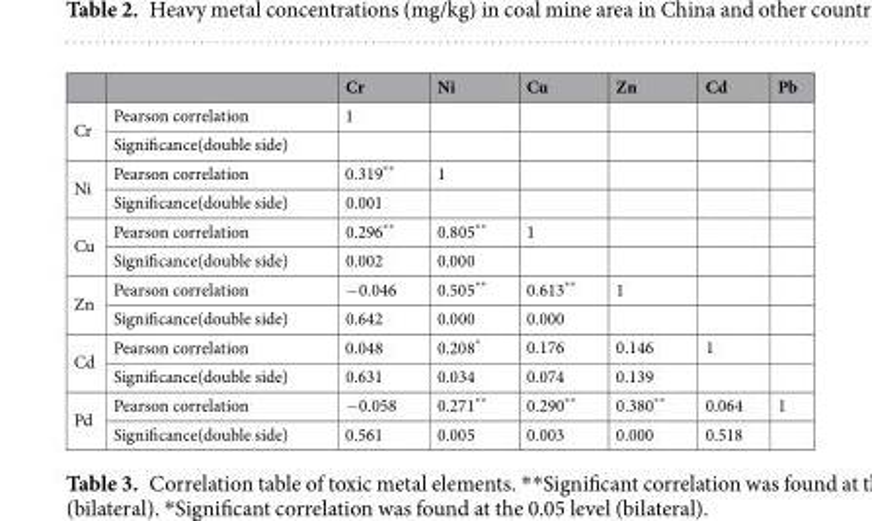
<table><thead><tr><td></td><td></td><td>Cr</td><td>Ni</td><td>Cu</td><td>Zn</td><td>Cd</td><td>Pb</td></tr></thead><tbody><tr><td rowspan="2">Cr</td><td>Pearson correlation</td><td>1</td><td></td><td></td><td></td><td></td><td></td></tr><tr><td>Significance(double side)</td><td></td><td></td><td></td><td></td><td></td><td></td></tr><tr><td rowspan="2">Ni</td><td>Pearson correlation</td><td>0.319**</td><td>1</td><td></td><td></td><td></td><td></td></tr><tr><td>Significance(double side)</td><td>0.001</td><td></td><td></td><td></td><td></td><td></td></tr><tr><td rowspan="2">Cu</td><td>Pearson correlation</td><td>0.296**</td><td>0.805**</td><td>1</td><td></td><td></td><td></td></tr><tr><td>Significance(double side)</td><td>0.002</td><td>0.000</td><td></td><td></td><td></td><td></td></tr><tr><td rowspan="2">Zn</td><td>Pearson correlation</td><td>−0.046</td><td>0.505**</td><td>0.613**</td><td>1</td><td></td><td></td></tr><tr><td>Significance(double side)</td><td>0.642</td><td>0.000</td><td>0.000</td><td></td><td></td><td></td></tr><tr><td rowspan="2">Cd</td><td>Pearson correlation</td><td>0.048</td><td>0.208*</td><td>0.176</td><td>0.146</td><td>1</td><td></td></tr><tr><td>Significance(double side)</td><td>0.631</td><td>0.034</td><td>0.074</td><td>0.139</td><td></td><td></td></tr><tr><td rowspan="2">Pd</td><td>Pearson correlation</td><td>−0.058</td><td>0.271**</td><td>0.290**</td><td>0.380**</td><td>0.064</td><td>1</td></tr><tr><td>Significance(double side)</td><td>0.561</td><td>0.005</td><td>0.003</td><td>0.000</td><td>0.518</td><td></td></tr></tbody></table>